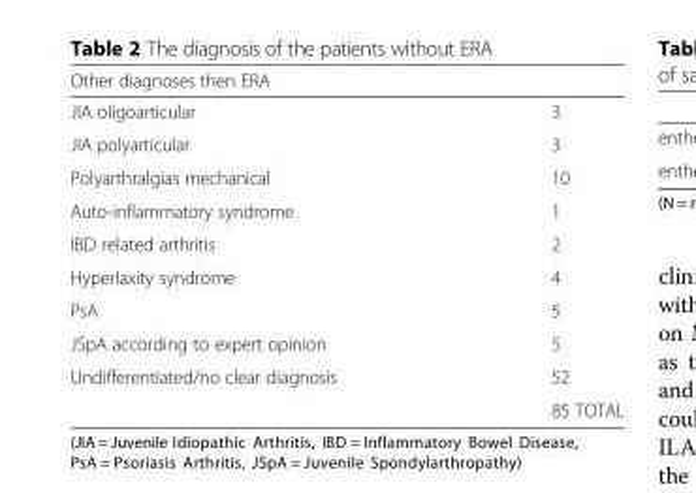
<table><thead><tr><td>Other diagnoses then ERA</td><td></td></tr></thead><tbody><tr><td>JIA oligoarticular</td><td>3</td></tr><tr><td>JIA polyarticular</td><td>3</td></tr><tr><td>Polyarthralgias mechanical</td><td>10</td></tr><tr><td>Auto-inflammatory syndrome</td><td>1</td></tr><tr><td>IBD related arthritis</td><td>2</td></tr><tr><td>Hyperlaxity syndrome</td><td>4</td></tr><tr><td>PsA</td><td>5</td></tr><tr><td>JSpA according to expert opinion</td><td>5</td></tr><tr><td rowspan="2">Undifferentiated/no clear diagnosis</td><td>52</td></tr><tr><td>85 TOTAL</td></tr></tbody></table>